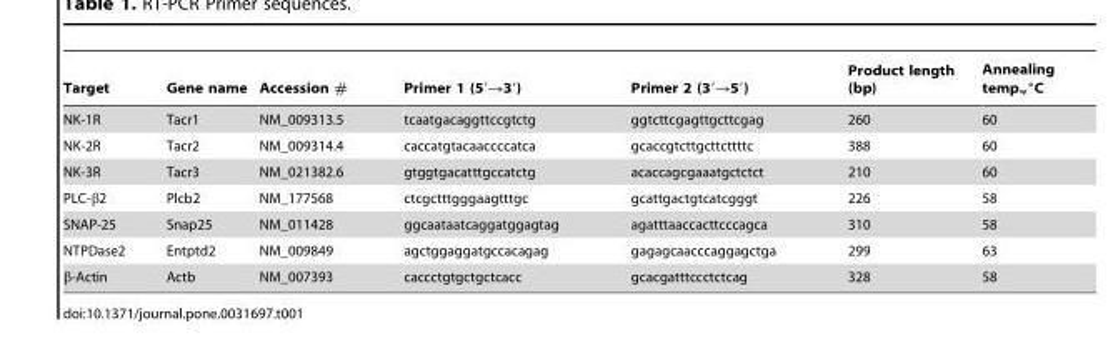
<table><thead><tr><td>Target</td><td>Gene name</td><td>Accession #</td><td>Primer 1 (5′→3′)</td><td>Primer 2 (3′→5′)</td><td>Product length (bp)</td><td>Annealing temp.,°C</td></tr></thead><tbody><tr><td>NK-1R</td><td>Tacr1</td><td>NM_009313.5</td><td>tcaatgacaggttccgtctg</td><td>ggtcttcgagttgcttcgag</td><td>260</td><td>60</td></tr><tr><td>NK-2R</td><td>Tacr2</td><td>NM_009314.4</td><td>caccatgtacaaccccatca</td><td>gcaccgtcttgcttcttttc</td><td>388</td><td>60</td></tr><tr><td>NK-3R</td><td>Tacr3</td><td>NM_021382.6</td><td>gtggtgacatttgccatctg</td><td>acaccagcgaaatgctctct</td><td>210</td><td>60</td></tr><tr><td>PLC-β2</td><td>Plcb2</td><td>NM_177568</td><td>ctcgctttgggaagtttgc</td><td>gcattgactgtcatcgggt</td><td>226</td><td>58</td></tr><tr><td>SNAP-25</td><td>Snap25</td><td>NM_011428</td><td>ggcaataatcaggatggagtag</td><td>agatttaaccacttcccagca</td><td>310</td><td>58</td></tr><tr><td>NTPDase2</td><td>Entptd2</td><td>NM_009849</td><td>agctggaggatgccacagag</td><td>gagagcaacccaggagctga</td><td>299</td><td>63</td></tr><tr><td>β-Actin</td><td>Actb</td><td>NM_007393</td><td>caccctgtgctgctcacc</td><td>gcacgatttccctctcag</td><td>328</td><td>58</td></tr></tbody></table>